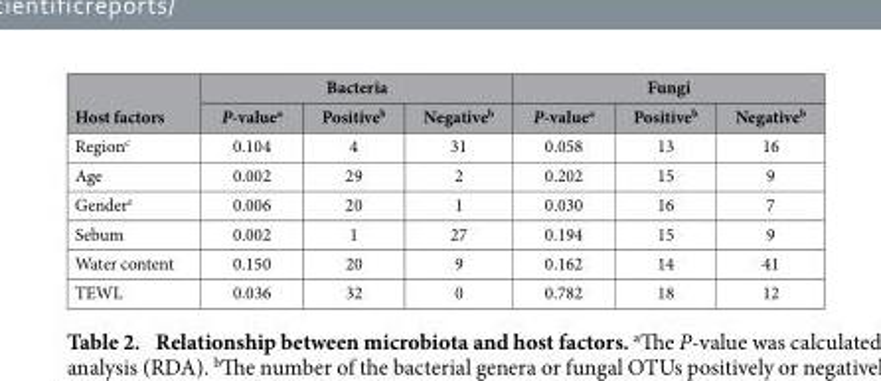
<table><thead><tr><td rowspan="2">Host factors</td><td colspan="3">Bacteria</td><td colspan="3">Fungi</td></tr><tr><td>P-value<sup>a</sup></td><td>Positive<sup>b</sup></td><td>Negative<sup>b</sup></td><td>P-value<sup>a</sup></td><td>Positive<sup>b</sup></td><td>Negative<sup>b</sup></td></tr></thead><tbody><tr><td>Region<sup>c</sup></td><td>0.104</td><td>4</td><td>31</td><td>0.058</td><td>13</td><td>16</td></tr><tr><td>Age</td><td>0.002</td><td>29</td><td>2</td><td>0.202</td><td>15</td><td>9</td></tr><tr><td>Gender<sup>c</sup></td><td>0.006</td><td>20</td><td>1</td><td>0.030</td><td>16</td><td>7</td></tr><tr><td>Sebum</td><td>0.002</td><td>1</td><td>27</td><td>0.194</td><td>15</td><td>9</td></tr><tr><td>Water content</td><td>0.150</td><td>20</td><td>9</td><td>0.162</td><td>14</td><td>41</td></tr><tr><td>TEWL</td><td>0.036</td><td>32</td><td>0</td><td>0.782</td><td>18</td><td>12</td></tr></tbody></table>